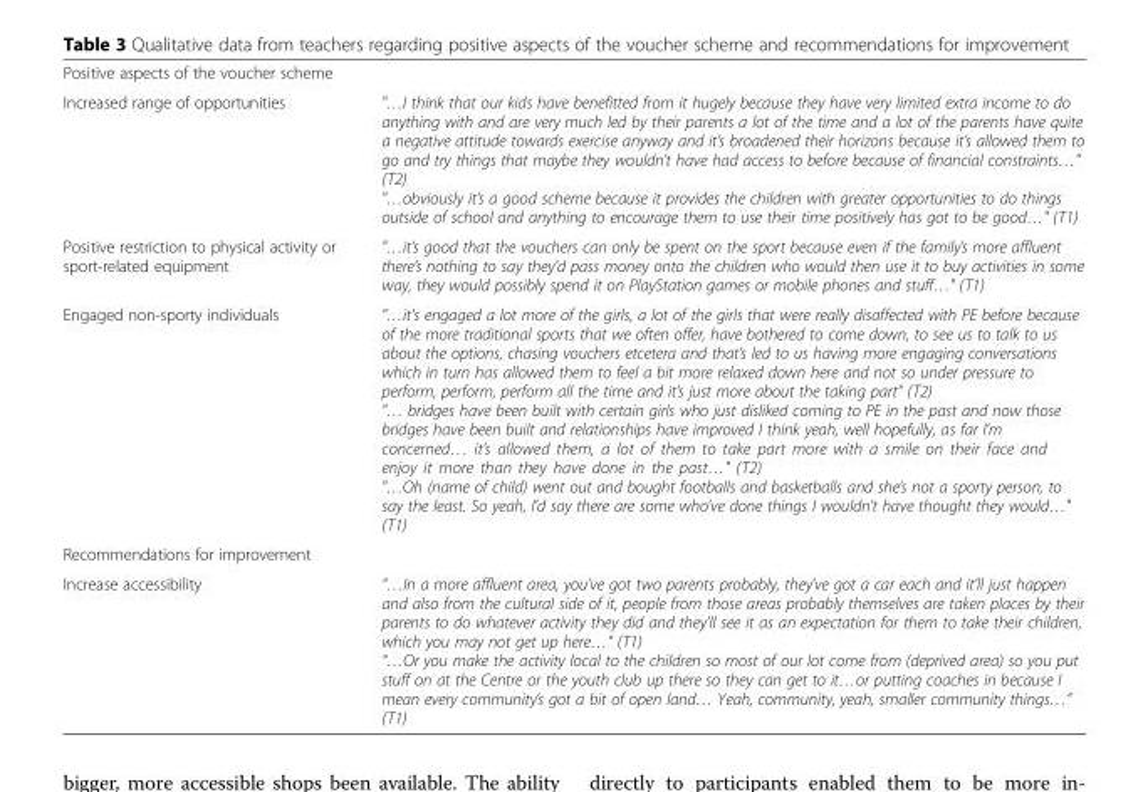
<table><tbody><tr><td colspan="2">Positive aspects of the voucher scheme</td></tr><tr><td>Increased range of opportunities</td><td>&quot;…I think that our kids have benefitted from it hugely because they have very limited extra income to do anything with and are very much led by their parents a lot of the time and a lot of the parents have quite a negative attitude towards exercise anyway and it’s broadened their horizons because it’s allowed them to go and try things that maybe they wouldn’t have had access to before because of financial constraints…&quot; (T2) &quot;…obviously it’s a good scheme because it provides the children with greater opportunities to do things outside of school and anything to encourage them to use their time positively has got to be good…&quot; (T1)</td></tr><tr><td>Positive restriction to physical activity or sport-related equipment</td><td>&quot;…it’s good that the vouchers can only be spent on the sport because even if the family’s more affluent there’s nothing to say they’d pass money onto the children who would then use it to buy activities in some way, they would possibly spend it on PlayStation games or mobile phones and stuff…&quot; (T1)</td></tr><tr><td>Engaged non-sporty individuals</td><td>&quot;…it&#x27;s engaged a lot more of the girls, a lot of the girls that were really disaffected with PE before because of the more traditional sports that we often offer, have bothered to come down, to see us to talk to us about the options, chasing vouchers etcetera and that’s led to us having more engaging conversations which in turn has allowed them to feel a bit more relaxed down here and not so under pressure to perform, perform, perform all the time and it’s just more about the taking part” (T2) &quot;… bridges have been built with certain girls who just disliked coming to PE in the past and now those bridges have been built and relationships have improved I think yeah, well hopefully, as far I’m concerned… it’s allowed them, a lot of them to take part more with a smile on their face and enjoy it more than they have done in the past…&quot; (T2) &quot;…Oh (name of child) went out and bought footballs and basketballs and she’s not a sporty person, to say the least. So yeah, I’d say there are some who’ve done things I wouldn’t have thought they would…&quot; (T1)</td></tr><tr><td colspan="2">Recommendations for improvement</td></tr><tr><td>Increase accessibility</td><td>“…In a more affluent area, you’ve got two parents probably, they’ve got a car each and it’ll just happen and also from the cultural side of it, people from those areas probably themselves are taken places by their parents to do whatever activity they did and they’ll see it as an expectation for them to take their children, which you may not get up here…” (T1) “…Or you make the activity local to the children so most of our lot come from (deprived area) so you put stuff on at the Centre or the youth club up there so they can get to it…or putting coaches in because I mean every community’s got a bit of open land… Yeah, community, yeah, smaller community things…” (T1)</td></tr></tbody></table>